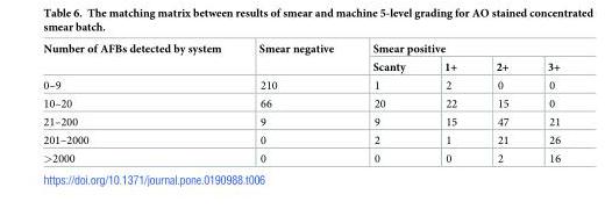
<table><thead><tr><td rowspan="2">Number of AFBs detected by system</td><td rowspan="2">Smear negative</td><td colspan="4">Smear positive</td></tr><tr><td>Scanty</td><td>1+</td><td>2+</td><td>3+</td></tr></thead><tbody><tr><td>0–9</td><td>210</td><td>1</td><td>2</td><td>0</td><td>0</td></tr><tr><td>10–20</td><td>66</td><td>20</td><td>22</td><td>15</td><td>0</td></tr><tr><td>21–200</td><td>9</td><td>9</td><td>15</td><td>47</td><td>21</td></tr><tr><td>201–2000</td><td>0</td><td>2</td><td>1</td><td>21</td><td>26</td></tr><tr><td>&gt;2000</td><td>0</td><td>0</td><td>0</td><td>2</td><td>16</td></tr></tbody></table>